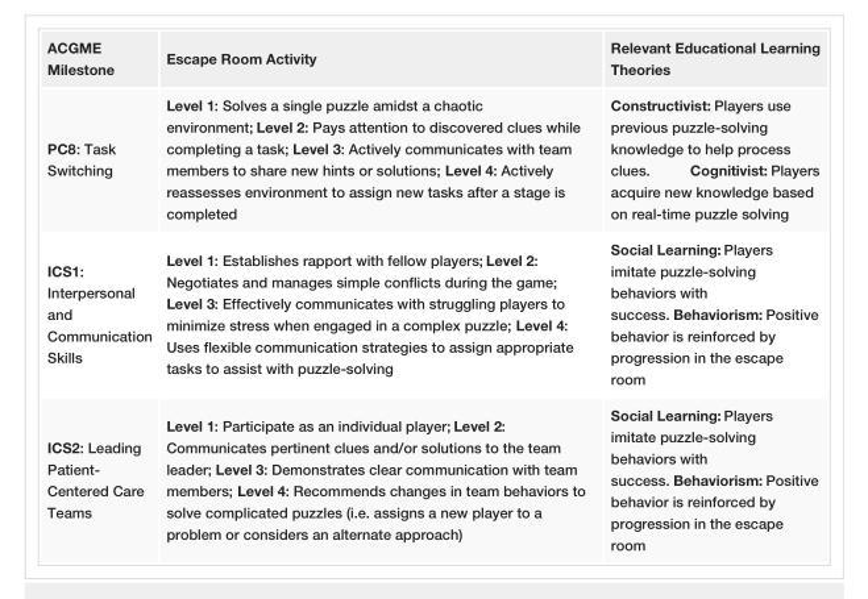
<table><tbody><tr><td>ACGME Milestone</td><td>Escape Room Activity</td><td>Relevant Educational Learning Theories</td></tr><tr><td>PC8: Task Switching</td><td>Level 1: Solves a single puzzle amidst a chaotic environment; Level 2: Pays attention to discovered clues while completing a task; Level 3: Actively communicates with team members to share new hints or solutions; Level 4: Actively reassesses environment to assign new tasks after a stage is completed</td><td>Constructivist: Players use previous puzzle-solving knowledge to help process clues. Cognitivist: Players acquire new knowledge based on real-time puzzle solving</td></tr><tr><td>ICS1: Interpersonal and Communication Skills</td><td>Level 1: Establishes rapport with fellow players; Level 2: Negotiates and manages simple conflicts during the game; Level 3: Effectively communicates with struggling players to minimize stress when engaged in a complex puzzle; Level 4: Uses flexible communication strategies to assign appropriate tasks to assist with puzzle-solving</td><td>Social Learning: Players imitate puzzle-solving behaviors with success. Behaviorism: Positive behavior is reinforced by progression in the escape room</td></tr><tr><td>ICS2: Leading Patient- Centered Care Teams</td><td>Level 1: Participate as an individual player; Level 2: Communicates pertinent clues and/or solutions to the team leader; Level 3: Demonstrates clear communication with team members; Level 4: Recommends changes in team behaviors to solve complicated puzzles (i.e. assigns a new player to a problem or considers an alternate approach)</td><td>Social Learning: Players imitate puzzle-solving behaviors with success. Behaviorism: Positive behavior is reinforced by progression in the escape room</td></tr></tbody></table>